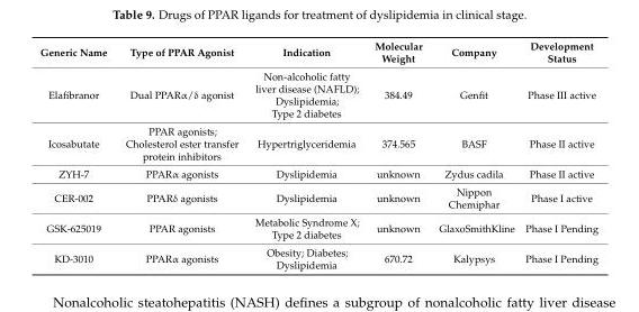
<table><thead><tr><td>Generic Name</td><td>Type of PPAR Agonist</td><td>Indication</td><td>Molecular Weight</td><td>Company</td><td>Development Status</td></tr></thead><tbody><tr><td>Elafibranor</td><td>Dual PPARα/δ agonist</td><td>Non-alcoholic fatty liver disease (NAFLD); Dyslipidemia; Type 2 diabetes</td><td>384.49</td><td>Genfit</td><td>Phase III active</td></tr><tr><td>Icosabutate</td><td>PPAR agonists; Cholesterol ester transfer protein inhibitors</td><td>Hypertriglyceridemia</td><td>374.565</td><td>BASF</td><td>Phase II active</td></tr><tr><td>ZYH-7</td><td>PPARα agonists</td><td>Dyslipidemia</td><td>unknown</td><td>Zydus cadila</td><td>Phase II active</td></tr><tr><td>CER-002</td><td>PPARδ agonists</td><td>Dyslipidemia</td><td>unknown</td><td>Nippon Chemiphar</td><td>Phase I active</td></tr><tr><td>GSK-625019</td><td>PPAR agonists</td><td>Metabolic Syndrome X; Type 2 diabetes</td><td>unknown</td><td>GlaxoSmithKline</td><td>Phase I Pending</td></tr><tr><td>KD-3010</td><td>PPARα agonists</td><td>Obesity; Diabetes; Dyslipidemia</td><td>670.72</td><td>Kalypsys</td><td>Phase I Pending</td></tr></tbody></table>